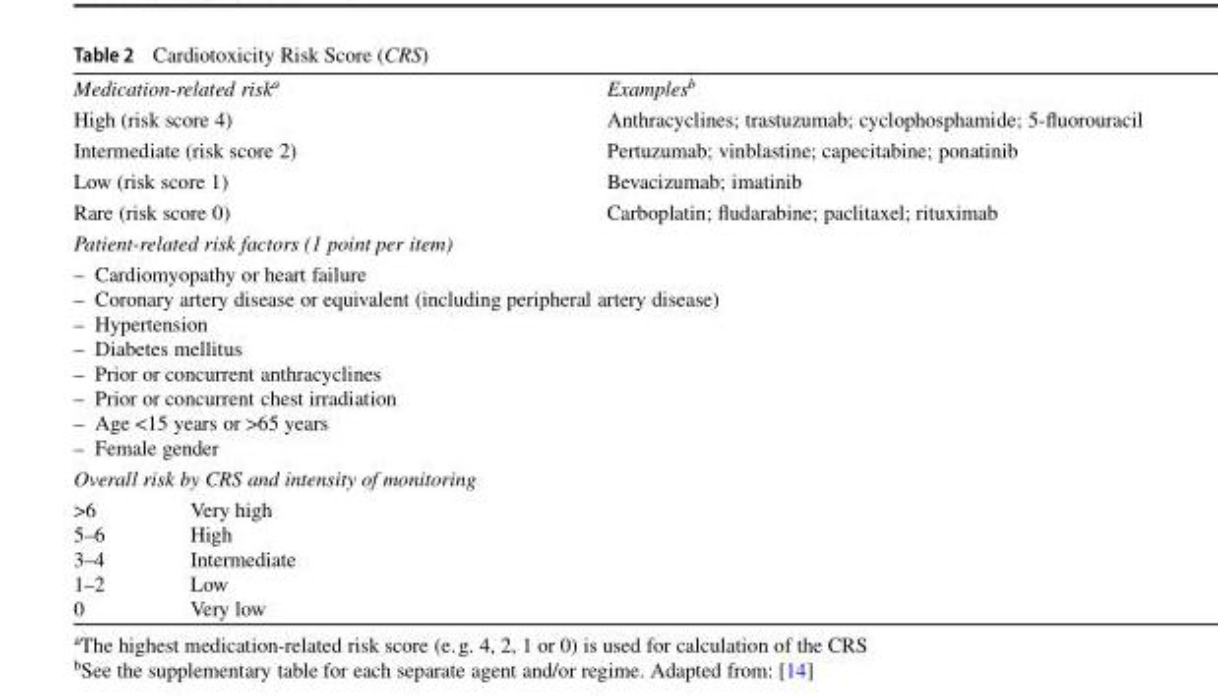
<table><tbody><tr><td colspan="2">Medication-related risk<sup>a</sup></td><td>Examples<sup>b</sup></td></tr><tr><td colspan="2">High (risk score 4)</td><td>Anthracyclines; trastuzumab; cyclophosphamide; 5-fluorouracil</td></tr><tr><td colspan="2">Intermediate (risk score 2)</td><td>Pertuzumab; vinblastine; capecitabine; ponatinib</td></tr><tr><td colspan="2">Low (risk score 1)</td><td>Bevacizumab; imatinib</td></tr><tr><td colspan="2">Rare (risk score 0)</td><td>Carboplatin; fludarabine; paclitaxel; rituximab</td></tr><tr><td colspan="3">Patient-related risk factors (1 point per item)</td></tr><tr><td colspan="3">– Cardiomyopathy or heart failure – Coronary artery disease or equivalent (including peripheral artery disease) – Hypertension – Diabetes mellitus – Prior or concurrent anthracyclines – Prior or concurrent chest irradiation – Age &lt;15 years or &gt;65 years – Female gender</td></tr><tr><td colspan="3">Overall risk by CRS and intensity of monitoring</td></tr><tr><td>&gt;6 5–6 3–4 1–2 0</td><td>Very high High Intermediate Low Very low</td><td></td></tr></tbody></table>